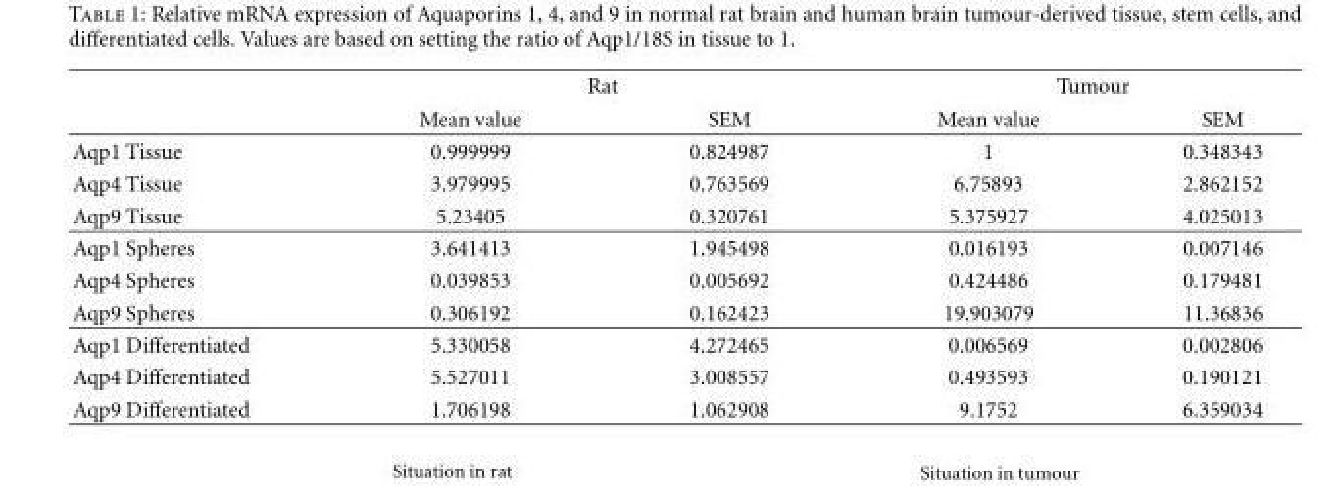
<table><thead><tr><td rowspan="2"></td><td colspan="2">Rat</td><td colspan="2">Tumour</td></tr><tr><td>Mean value</td><td>SEM</td><td>Mean value</td><td>SEM</td></tr></thead><tbody><tr><td>Aqp1 Tissue</td><td>0.999999</td><td>0.824987</td><td>1</td><td>0.348343</td></tr><tr><td>Aqp4 Tissue</td><td>3.979995</td><td>0.763569</td><td>6.75893</td><td>2.862152</td></tr><tr><td>Aqp9 Tissue</td><td>5.23405</td><td>0.320761</td><td>5.375927</td><td>4.025013</td></tr><tr><td>Aqp1 Spheres</td><td>3.641413</td><td>1.945498</td><td>0.016193</td><td>0.007146</td></tr><tr><td>Aqp4 Spheres</td><td>0.039853</td><td>0.005692</td><td>0.424486</td><td>0.179481</td></tr><tr><td>Aqp9 Spheres</td><td>0.306192</td><td>0.162423</td><td>19.903079</td><td>11.36836</td></tr><tr><td>Aqp1 Differentiated</td><td>5.330058</td><td>4.272465</td><td>0.006569</td><td>0.002806</td></tr><tr><td>Aqp4 Differentiated</td><td>5.527011</td><td>3.008557</td><td>0.493593</td><td>0.190121</td></tr><tr><td>Aqp9 Differentiated</td><td>1.706198</td><td>1.062908</td><td>9.1752</td><td>6.359034</td></tr></tbody></table>